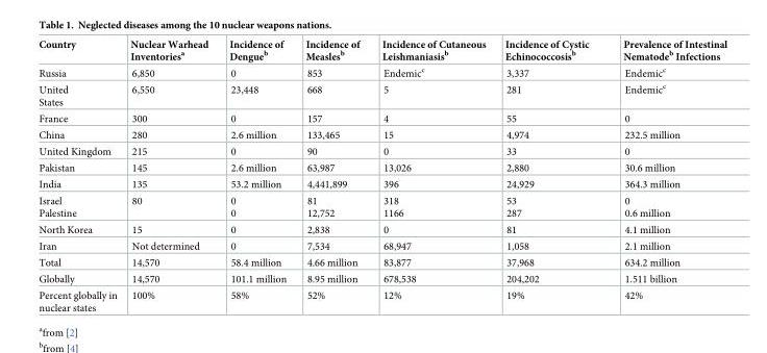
<table><thead><tr><td>Country</td><td>Nuclear Warhead Inventories<sup>a</sup></td><td>Incidence of Dengue<sup>b</sup></td><td>Incidence of Measles<sup>b</sup></td><td>Incidence of Cutaneous Leishmaniasis<sup>b</sup></td><td>Incidence of Cystic Echinococcosis<sup>b</sup></td><td>Prevalence of Intestinal Nematode<sup>b</sup> Infections</td></tr></thead><tbody><tr><td>Russia</td><td>6,850</td><td>0</td><td>853</td><td>Endemic<sup>c</sup></td><td>3,337</td><td>Endemic<sup>c</sup></td></tr><tr><td>United States</td><td>6,550</td><td>23,448</td><td>668</td><td>5</td><td>281</td><td>Endemic<sup>c</sup></td></tr><tr><td>France</td><td>300</td><td>0</td><td>157</td><td>4</td><td>55</td><td>0</td></tr><tr><td>China</td><td>280</td><td>2.6 million</td><td>133,465</td><td>15</td><td>4,974</td><td>232.5 million</td></tr><tr><td>United Kingdom</td><td>215</td><td>0</td><td>90</td><td>0</td><td>33</td><td>0</td></tr><tr><td>Pakistan</td><td>145</td><td>2.6 million</td><td>63,987</td><td>13,026</td><td>2,880</td><td>30.6 million</td></tr><tr><td>India</td><td>135</td><td>53.2 million</td><td>4,441,899</td><td>396</td><td>24,929</td><td>364.3 million</td></tr><tr><td>Israel Palestine</td><td>80</td><td>0 0</td><td>81 12,752</td><td>318 1166</td><td>53 287</td><td>0 0.6 million</td></tr><tr><td>North Korea</td><td>15</td><td>0</td><td>2,838</td><td>0</td><td>81</td><td>4.1 million</td></tr><tr><td>Iran</td><td>Not determined</td><td>0</td><td>7,534</td><td>68,947</td><td>1,058</td><td>2.1 million</td></tr><tr><td>Total</td><td>14,570</td><td>58.4 million</td><td>4.66 million</td><td>83,877</td><td>37,968</td><td>634.2 million</td></tr><tr><td>Globally</td><td>14,570</td><td>101.1 million</td><td>8.95 million</td><td>678,538</td><td>204,202</td><td>1.511 billion</td></tr><tr><td>Percent globally in nuclear states</td><td>100%</td><td>58%</td><td>52%</td><td>12%</td><td>19%</td><td>42%</td></tr></tbody></table>